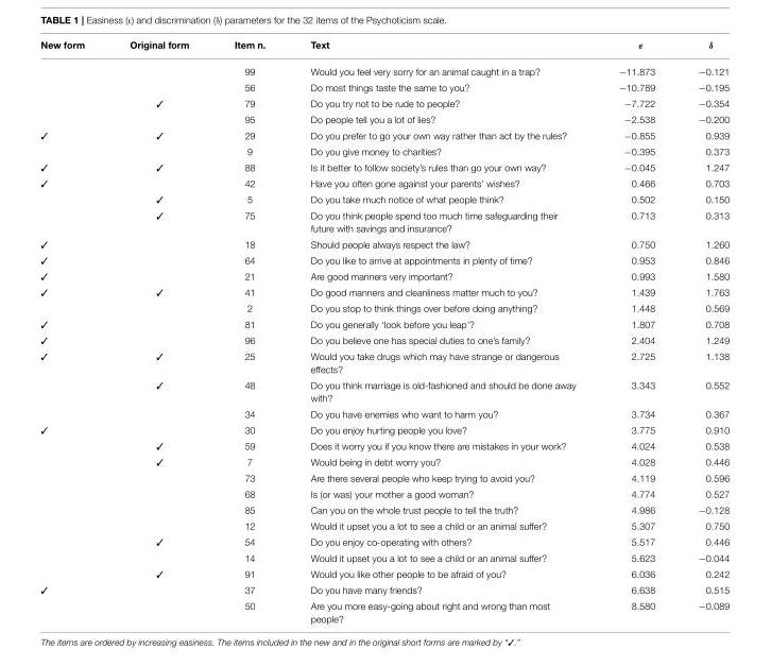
<table><thead><tr><td>New form</td><td>Original form</td><td>Item n.</td><td>Text</td><td>ε</td><td>δ</td></tr></thead><tbody><tr><td></td><td></td><td>99</td><td>Would you feel very sorry for an animal caught in a trap?</td><td>−11.873</td><td>−0.121</td></tr><tr><td></td><td></td><td>56</td><td>Do most things taste the same to you?</td><td>−10.789</td><td>−0.195</td></tr><tr><td></td><td></td><td>79</td><td>Do you try not to be rude to people?</td><td>−7.722</td><td>−0.354</td></tr><tr><td></td><td></td><td>95</td><td>Do people tell you a lot of lies?</td><td>−2.538</td><td>−0.200</td></tr><tr><td rowspan="2"></td><td></td><td>29</td><td>Do you prefer to go your own way rather than act by the rules?</td><td>−0.855</td><td>0.939</td></tr><tr><td></td><td>9</td><td>Do you give money to charities?</td><td>−0.395</td><td>0.373</td></tr><tr><td></td><td></td><td>88</td><td>Is it better to follow society’s rules than go your own way?</td><td>−0.045</td><td>1.247</td></tr><tr><td rowspan="3"></td><td></td><td>42</td><td>Have you often gone against your parents’ wishes?</td><td>0.466</td><td>0.703</td></tr><tr><td></td><td>5</td><td>Do you take much notice of what people think?</td><td>0.502</td><td>0.150</td></tr><tr><td></td><td>75</td><td>Do you think people spend too much time safeguarding their future with savings and insurance?</td><td>0.713</td><td>0.313</td></tr><tr><td></td><td></td><td>18</td><td>Should people always respect the law?</td><td>0.750</td><td>1.260</td></tr><tr><td></td><td></td><td>64</td><td>Do you like to arrive at appointments in plenty of time?</td><td>0.953</td><td>0.846</td></tr><tr><td></td><td></td><td>21</td><td>Are good manners very important?</td><td>0.993</td><td>1.580</td></tr><tr><td rowspan="2"></td><td></td><td>41</td><td>Do good manners and cleanliness matter much to you?</td><td>1.439</td><td>1.763</td></tr><tr><td></td><td>2</td><td>Do you stop to think things over before doing anything?</td><td>1.448</td><td>0.569</td></tr><tr><td></td><td></td><td>81</td><td>Do you generally ‘look before you leap’?</td><td>1.807</td><td>0.708</td></tr><tr><td></td><td></td><td>96</td><td>Do you believe one has special duties to one’s family?</td><td>2.404</td><td>1.249</td></tr><tr><td rowspan="3"></td><td></td><td>25</td><td>Would you take drugs which may have strange or dangerous effects?</td><td>2.725</td><td>1.138</td></tr><tr><td></td><td>48</td><td>Do you think marriage is old-fashioned and should be done away with?</td><td>3.343</td><td>0.552</td></tr><tr><td></td><td>34</td><td>Do you have enemies who want to harm you?</td><td>3.734</td><td>0.367</td></tr><tr><td rowspan="10"></td><td></td><td>30</td><td>Do you enjoy hurting people you love?</td><td>3.775</td><td>0.910</td></tr><tr><td></td><td>59</td><td>Does it worry you if you know there are mistakes in your work?</td><td>4.024</td><td>0.538</td></tr><tr><td></td><td>7</td><td>Would being in debt worry you?</td><td>4.028</td><td>0.446</td></tr><tr><td></td><td>73</td><td>Are there several people who keep trying to avoid you?</td><td>4.119</td><td>0.596</td></tr><tr><td></td><td>68</td><td>Is (or was) your mother a good woman?</td><td>4.774</td><td>0.527</td></tr><tr><td></td><td>85</td><td>Can you on the whole trust people to tell the truth?</td><td>4.986</td><td>−0.128</td></tr><tr><td></td><td>12</td><td>Would it upset you a lot to see a child or an animal suffer?</td><td>5.307</td><td>0.750</td></tr><tr><td></td><td>54</td><td>Do you enjoy co-operating with others?</td><td>5.517</td><td>0.446</td></tr><tr><td></td><td>14</td><td>Would it upset you a lot to see a child or an animal suffer?</td><td>5.623</td><td>−0.044</td></tr><tr><td></td><td>91</td><td>Would you like other people to be afraid of you?</td><td>6.036</td><td>0.242</td></tr><tr><td rowspan="2"></td><td></td><td>37</td><td>Do you have many friends?</td><td>6.638</td><td>0.515</td></tr><tr><td></td><td>50</td><td>Are you more easy-going about right and wrong than most people?</td><td>8.580</td><td>−0.089</td></tr></tbody></table>